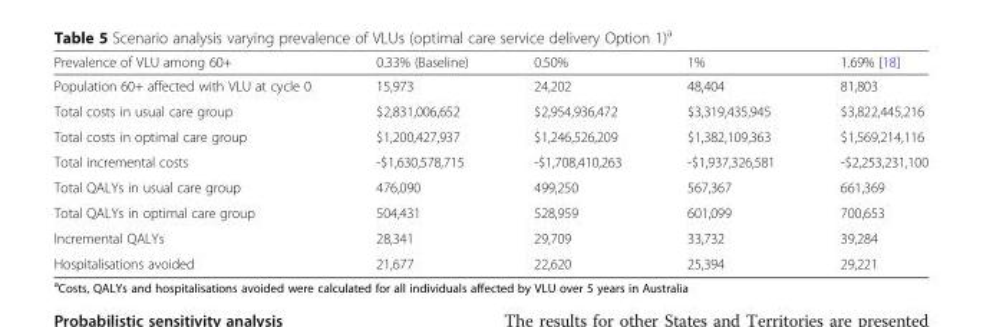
<table><thead><tr><td>Prevalence of VLU among 60+</td><td>0.33% (Baseline)</td><td>0.50%</td><td>1%</td><td>1.69% [18]</td></tr></thead><tbody><tr><td>Population 60+ affected with VLU at cycle 0</td><td>15,973</td><td>24,202</td><td>48,404</td><td>81,803</td></tr><tr><td>Total costs in usual care group</td><td>$2,831,006,652</td><td>$2,954,936,472</td><td>$3,319,435,945</td><td>$3,822,445,216</td></tr><tr><td>Total costs in optimal care group</td><td>$1,200,427,937</td><td>$1,246,526,209</td><td>$1,382,109,363</td><td>$1,569,214,116</td></tr><tr><td>Total incremental costs</td><td>-$1,630,578,715</td><td>-$1,708,410,263</td><td>-$1,937,326,581</td><td>-$2,253,231,100</td></tr><tr><td>Total QALYs in usual care group</td><td>476,090</td><td>499,250</td><td>567,367</td><td>661,369</td></tr><tr><td>Total QALYs in optimal care group</td><td>504,431</td><td>528,959</td><td>601,099</td><td>700,653</td></tr><tr><td>Incremental QALYs</td><td>28,341</td><td>29,709</td><td>33,732</td><td>39,284</td></tr><tr><td>Hospitalisations avoided</td><td>21,677</td><td>22,620</td><td>25,394</td><td>29,221</td></tr></tbody></table>